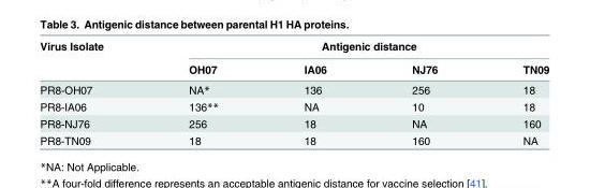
<table><thead><tr><td rowspan="2">Virus Isolate</td><td colspan="4">Antigenic distance</td></tr><tr><td>OH07</td><td>IA06</td><td>NJ76</td><td>TN09</td></tr></thead><tbody><tr><td>PR8-OH07</td><td>NA*</td><td>136</td><td>256</td><td>18</td></tr><tr><td>PR8-IA06</td><td>136**</td><td>NA</td><td>10</td><td>18</td></tr><tr><td>PR8-NJ76</td><td>256</td><td>18</td><td>NA</td><td>160</td></tr><tr><td>PR8-TN09</td><td>18</td><td>18</td><td>160</td><td>NA</td></tr></tbody></table>